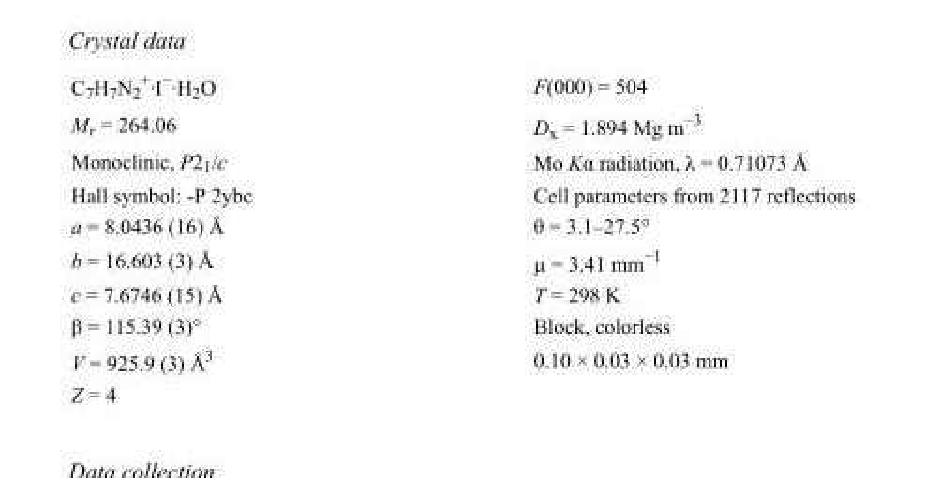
<table><tbody><tr><td>C<sub>7</sub>H<sub>7</sub>N<sub>2</sub> <sup>+</sup>·I<sup>−</sup>·H<sub>2</sub>O</td><td>F(000) = 504</td></tr><tr><td>M<sub>r</sub> = 264.06</td><td>D<sub>x</sub> = 1.894 Mg m<sup>−3</sup></td></tr><tr><td>Monoclinic, P2<sub>1</sub>/c</td><td>Mo Kα radiation, λ = 0.71073 Å</td></tr><tr><td>Hall symbol: -P 2ybc</td><td>Cell parameters from 2117 reflections</td></tr><tr><td>a = 8.0436 (16) Å</td><td>θ = 3.1–27.5°</td></tr><tr><td>b = 16.603 (3) Å</td><td>µ = 3.41 mm<sup>−1</sup></td></tr><tr><td>c = 7.6746 (15) Å</td><td>T = 298 K</td></tr><tr><td>β = 115.39 (3)°</td><td>Block, colorless</td></tr><tr><td>V = 925.9 (3) Å<sup>3</sup></td><td>0.10 × 0.03 × 0.03 mm</td></tr><tr><td>Z = 4</td><td></td></tr></tbody></table>